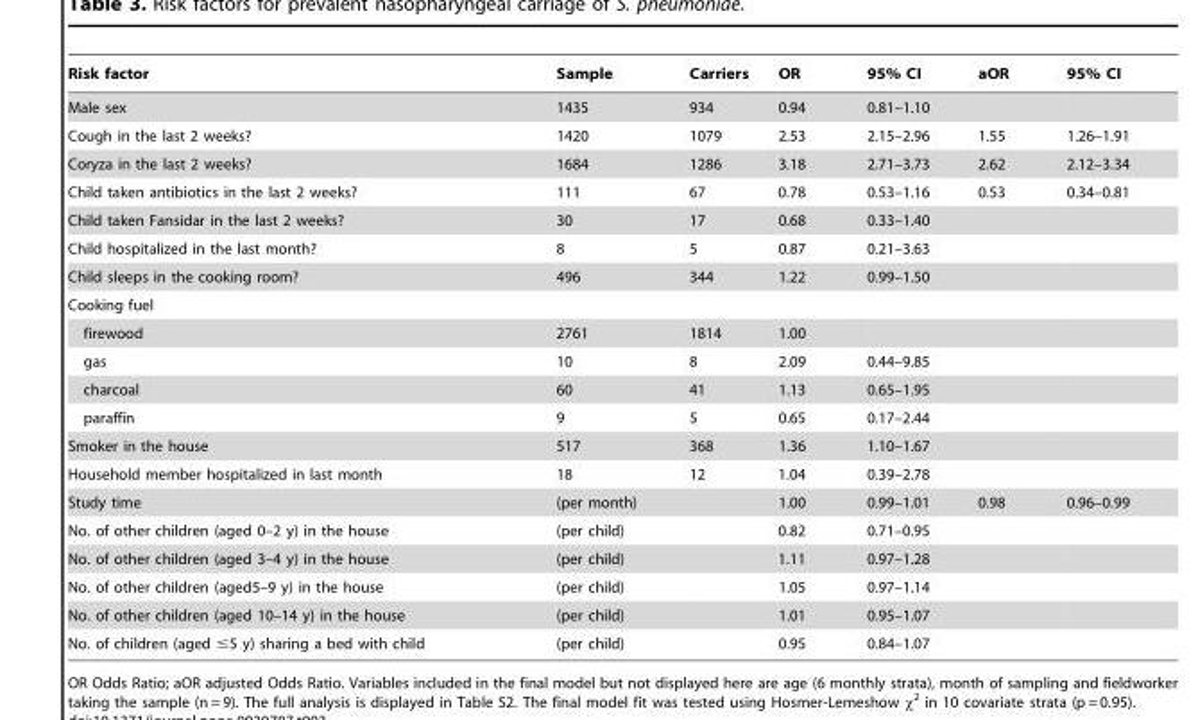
<table><thead><tr><td>Risk factor</td><td>Sample</td><td>Carriers</td><td>OR</td><td>95% CI</td><td>aOR</td><td>95% CI</td></tr></thead><tbody><tr><td>Male sex</td><td>1435</td><td>934</td><td>0.94</td><td>0.81–1.10</td><td></td><td></td></tr><tr><td>Cough in the last 2 weeks?</td><td>1420</td><td>1079</td><td>2.53</td><td>2.15–2.96</td><td>1.55</td><td>1.26–1.91</td></tr><tr><td>Coryza in the last 2 weeks?</td><td>1684</td><td>1286</td><td>3.18</td><td>2.71–3.73</td><td>2.62</td><td>2.12–3.34</td></tr><tr><td>Child taken antibiotics in the last 2 weeks?</td><td>111</td><td>67</td><td>0.78</td><td>0.53–1.16</td><td>0.53</td><td>0.34–0.81</td></tr><tr><td>Child taken Fansidar in the last 2 weeks?</td><td>30</td><td>17</td><td>0.68</td><td>0.33–1.40</td><td></td><td></td></tr><tr><td>Child hospitalized in the last month?</td><td>8</td><td>5</td><td>0.87</td><td>0.21–3.63</td><td></td><td></td></tr><tr><td>Child sleeps in the cooking room?</td><td>496</td><td>344</td><td>1.22</td><td>0.99–1.50</td><td></td><td></td></tr><tr><td colspan="7">Cooking fuel</td></tr><tr><td>firewood</td><td>2761</td><td>1814</td><td>1.00</td><td></td><td></td><td></td></tr><tr><td>gas</td><td>10</td><td>8</td><td>2.09</td><td>0.44–9.85</td><td></td><td></td></tr><tr><td>charcoal</td><td>60</td><td>41</td><td>1.13</td><td>0.65–1.95</td><td></td><td></td></tr><tr><td>paraffin</td><td>9</td><td>5</td><td>0.65</td><td>0.17–2.44</td><td></td><td></td></tr><tr><td>Smoker in the house</td><td>517</td><td>368</td><td>1.36</td><td>1.10–1.67</td><td></td><td></td></tr><tr><td>Household member hospitalized in last month</td><td>18</td><td>12</td><td>1.04</td><td>0.39–2.78</td><td></td><td></td></tr><tr><td>Study time</td><td>(per month)</td><td></td><td>1.00</td><td>0.99–1.01</td><td>0.98</td><td>0.96–0.99</td></tr><tr><td>No. of other children (aged 0–2 y) in the house</td><td>(per child)</td><td></td><td>0.82</td><td>0.71–0.95</td><td></td><td></td></tr><tr><td>No. of other children (aged 3–4 y) in the house</td><td>(per child)</td><td></td><td>1.11</td><td>0.97–1.28</td><td></td><td></td></tr><tr><td>No. of other children (aged5–9 y) in the house</td><td>(per child)</td><td></td><td>1.05</td><td>0.97–1.14</td><td></td><td></td></tr><tr><td>No. of other children (aged 10–14 y) in the house</td><td>(per child)</td><td></td><td>1.01</td><td>0.95–1.07</td><td></td><td></td></tr><tr><td>No. of children (aged ≤5 y) sharing a bed with child</td><td>(per child)</td><td></td><td>0.95</td><td>0.84–1.07</td><td></td><td></td></tr></tbody></table>